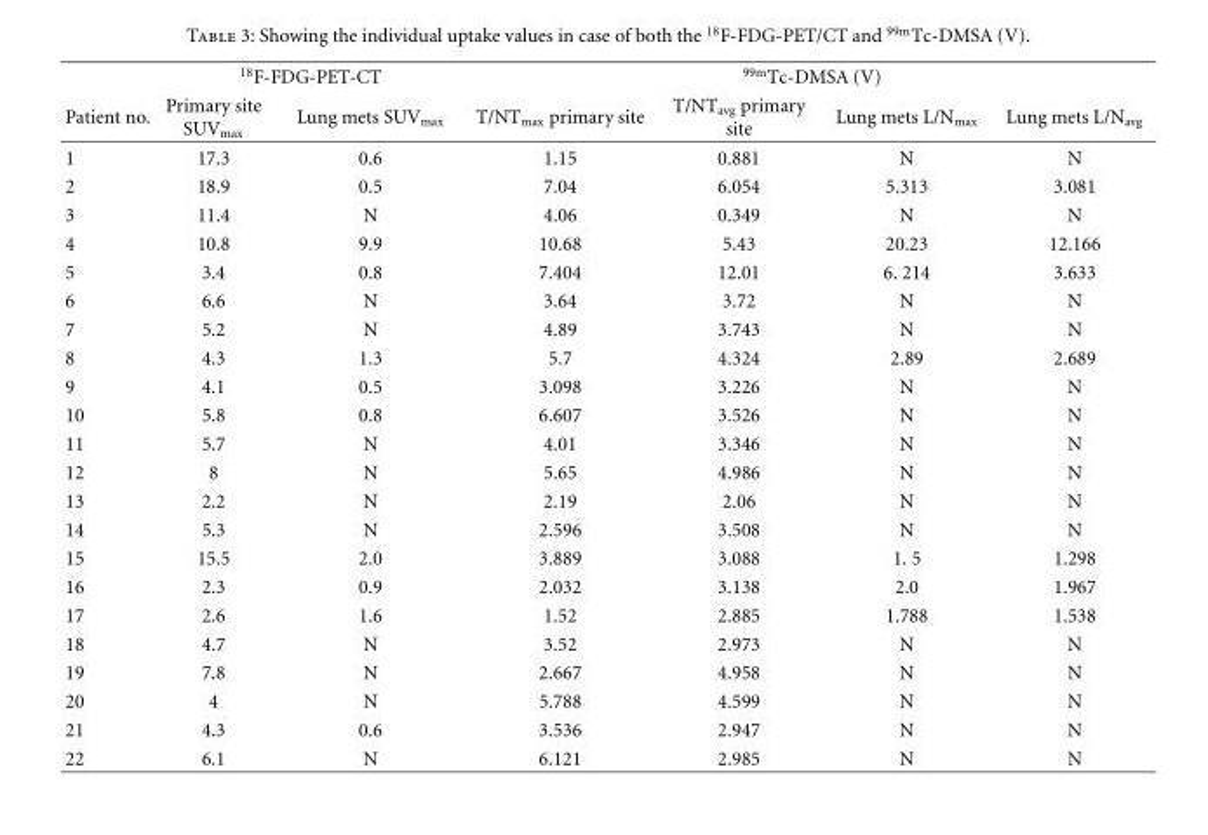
<table><thead><tr><td rowspan="2">Patient no.</td><td colspan="2"><sup>18</sup>F-FDG-PET-CT</td><td colspan="4"><sup>99m</sup>Tc-DMSA (V)</td></tr><tr><td>Primary site SUV<sub>max</sub></td><td>Lung mets SUV<sub>max</sub></td><td>T/NT<sub>max</sub> primary site</td><td>T/NT<sub>avg</sub> primary site</td><td>Lung mets L/N<sub>max</sub></td><td>Lung mets L/N<sub>avg</sub></td></tr></thead><tbody><tr><td>1</td><td>17.3</td><td>0.6</td><td>1.15</td><td>0.881</td><td>N</td><td>N</td></tr><tr><td>2</td><td>18.9</td><td>0.5</td><td>7.04</td><td>6.054</td><td>5.313</td><td>3.081</td></tr><tr><td>3</td><td>11.4</td><td>N</td><td>4.06</td><td>0.349</td><td>N</td><td>N</td></tr><tr><td>4</td><td>10.8</td><td>9.9</td><td>10.68</td><td>5.43</td><td>20.23</td><td>12.166</td></tr><tr><td>5</td><td>3.4</td><td>0.8</td><td>7.404</td><td>12.01</td><td>6. 214</td><td>3.633</td></tr><tr><td>6</td><td>6.6</td><td>N</td><td>3.64</td><td>3.72</td><td>N</td><td>N</td></tr><tr><td>7</td><td>5.2</td><td>N</td><td>4.89</td><td>3.743</td><td>N</td><td>N</td></tr><tr><td>8</td><td>4.3</td><td>1.3</td><td>5.7</td><td>4.324</td><td>2.89</td><td>2.689</td></tr><tr><td>9</td><td>4.1</td><td>0.5</td><td>3.098</td><td>3.226</td><td>N</td><td>N</td></tr><tr><td>10</td><td>5.8</td><td>0.8</td><td>6.607</td><td>3.526</td><td>N</td><td>N</td></tr><tr><td>11</td><td>5.7</td><td>N</td><td>4.01</td><td>3.346</td><td>N</td><td>N</td></tr><tr><td>12</td><td>8</td><td>N</td><td>5.65</td><td>4.986</td><td>N</td><td>N</td></tr><tr><td>13</td><td>2.2</td><td>N</td><td>2.19</td><td>2.06</td><td>N</td><td>N</td></tr><tr><td>14</td><td>5.3</td><td>N</td><td>2.596</td><td>3.508</td><td>N</td><td>N</td></tr><tr><td>15</td><td>15.5</td><td>2.0</td><td>3.889</td><td>3.088</td><td>1. 5</td><td>1.298</td></tr><tr><td>16</td><td>2.3</td><td>0.9</td><td>2.032</td><td>3.138</td><td>2.0</td><td>1.967</td></tr><tr><td>17</td><td>2.6</td><td>1.6</td><td>1.52</td><td>2.885</td><td>1.788</td><td>1.538</td></tr><tr><td>18</td><td>4.7</td><td>N</td><td>3.52</td><td>2.973</td><td>N</td><td>N</td></tr><tr><td>19</td><td>7.8</td><td>N</td><td>2.667</td><td>4.958</td><td>N</td><td>N</td></tr><tr><td>20</td><td>4</td><td>N</td><td>5.788</td><td>4.599</td><td>N</td><td>N</td></tr><tr><td>21</td><td>4.3</td><td>0.6</td><td>3.536</td><td>2.947</td><td>N</td><td>N</td></tr><tr><td>22</td><td>6.1</td><td>N</td><td>6.121</td><td>2.985</td><td>N</td><td>N</td></tr></tbody></table>